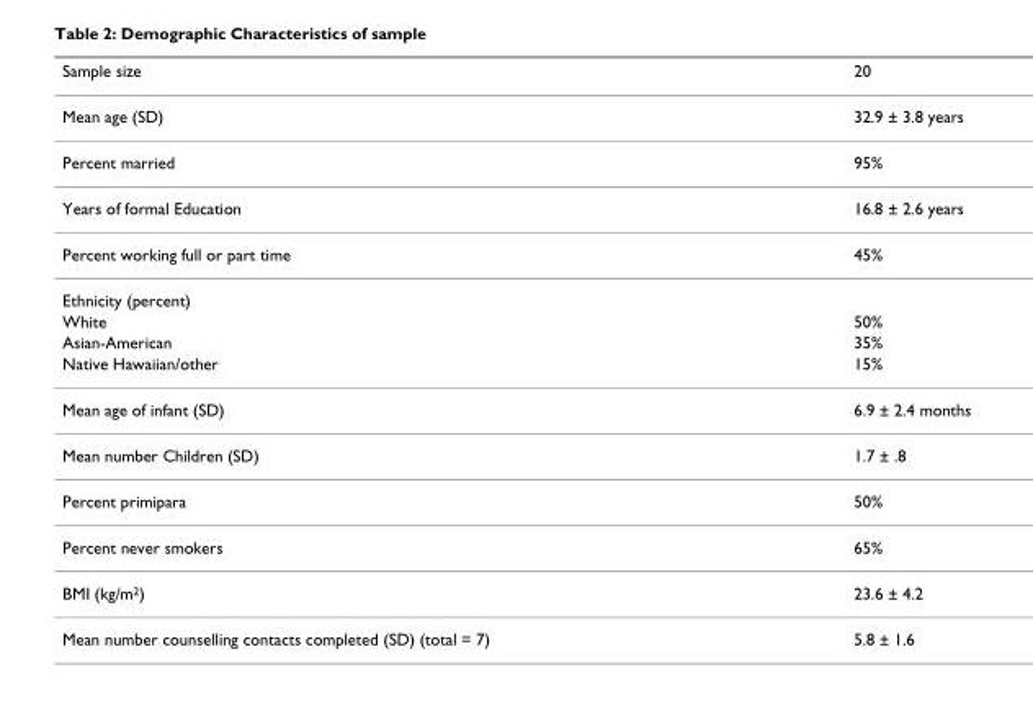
<table><thead><tr><td>Sample size</td><td>20</td></tr></thead><tbody><tr><td>Mean age (SD)</td><td>32.9 ± 3.8 years</td></tr><tr><td>Percent married</td><td>95%</td></tr><tr><td>Years of formal Education</td><td>16.8 ± 2.6 years</td></tr><tr><td>Percent working full or part time</td><td>45%</td></tr><tr><td colspan="2">Ethnicity (percent)</td></tr><tr><td>White</td><td>50%</td></tr><tr><td>Asian-American</td><td>35%</td></tr><tr><td>Native Hawaiian/other</td><td>15%</td></tr><tr><td>Mean age of infant (SD)</td><td>6.9 ± 2.4 months</td></tr><tr><td>Mean number Children (SD)</td><td>1.7 ± .8</td></tr><tr><td>Percent primipara</td><td>50%</td></tr><tr><td>Percent never smokers</td><td>65%</td></tr><tr><td>BMI (kg/m<sup>2</sup>)</td><td>23.6 ± 4.2</td></tr><tr><td>Mean number counselling contacts completed (SD) (total = 7)</td><td>5.8 ± 1.6</td></tr></tbody></table>